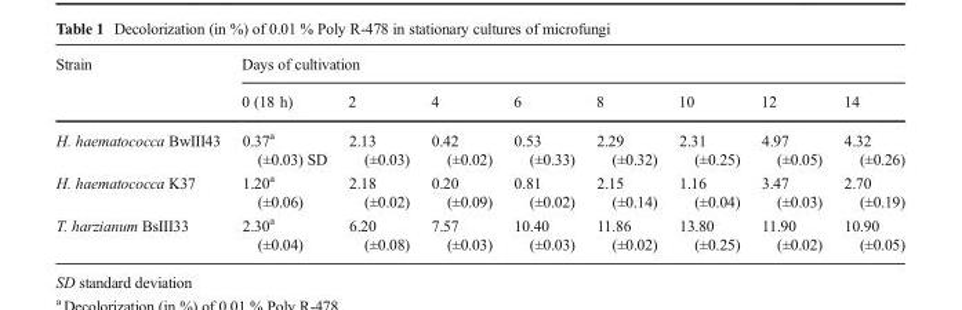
<table><thead><tr><td rowspan="2">Strain</td><td colspan="8">Days of cultivation</td></tr><tr><td>0 (18 h)</td><td>2</td><td>4</td><td>6</td><td>8</td><td>10</td><td>12</td><td>14</td></tr></thead><tbody><tr><td>H. haematococca BwIII43</td><td>0.37<sup>a</sup> (±0.03) SD</td><td>2.13 (±0.03)</td><td>0.42 (±0.02)</td><td>0.53 (±0.33)</td><td>2.29 (±0.32)</td><td>2.31 (±0.25)</td><td>4.97 (±0.05)</td><td>4.32 (±0.26)</td></tr><tr><td>H. haematococca K37</td><td>1.20<sup>a</sup> (±0.06)</td><td>2.18 (±0.02)</td><td>0.20 (±0.09)</td><td>0.81 (±0.02)</td><td>2.15 (±0.14)</td><td>1.16 (±0.04)</td><td>3.47 (±0.03)</td><td>2.70 (±0.19)</td></tr><tr><td>T. harzianum BsIII33</td><td>2.30<sup>a</sup> (±0.04)</td><td>6.20 (±0.08)</td><td>7.57 (±0.03)</td><td>10.40 (±0.03)</td><td>11.86 (±0.02)</td><td>13.80 (±0.25)</td><td>11.90 (±0.02)</td><td>10.90 (±0.05)</td></tr></tbody></table>